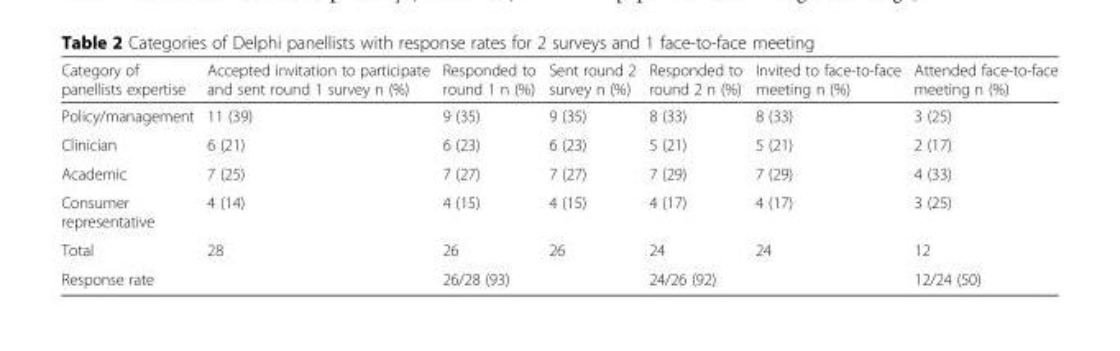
<table><thead><tr><td>Category of panellists expertise</td><td>Accepted invitation to participate and sent round 1 survey n (%)</td><td>Responded to round 1 n (%)</td><td>Sent round 2 survey n (%)</td><td>Responded to round 2 n (%)</td><td>Invited to face-to-face meeting n (%)</td><td>Attended face-to-face meeting n (%)</td></tr></thead><tbody><tr><td>Policy/management</td><td>11 (39)</td><td>9 (35)</td><td>9 (35)</td><td>8 (33)</td><td>8 (33)</td><td>3 (25)</td></tr><tr><td>Clinician</td><td>6 (21)</td><td>6 (23)</td><td>6 (23)</td><td>5 (21)</td><td>5 (21)</td><td>2 (17)</td></tr><tr><td>Academic</td><td>7 (25)</td><td>7 (27)</td><td>7 (27)</td><td>7 (29)</td><td>7 (29)</td><td>4 (33)</td></tr><tr><td>Consumer representative</td><td>4 (14)</td><td>4 (15)</td><td>4 (15)</td><td>4 (17)</td><td>4 (17)</td><td>3 (25)</td></tr><tr><td>Total</td><td>28</td><td>26</td><td>26</td><td>24</td><td>24</td><td>12</td></tr><tr><td>Response rate</td><td></td><td>26/28 (93)</td><td></td><td>24/26 (92)</td><td></td><td>12/24 (50)</td></tr></tbody></table>